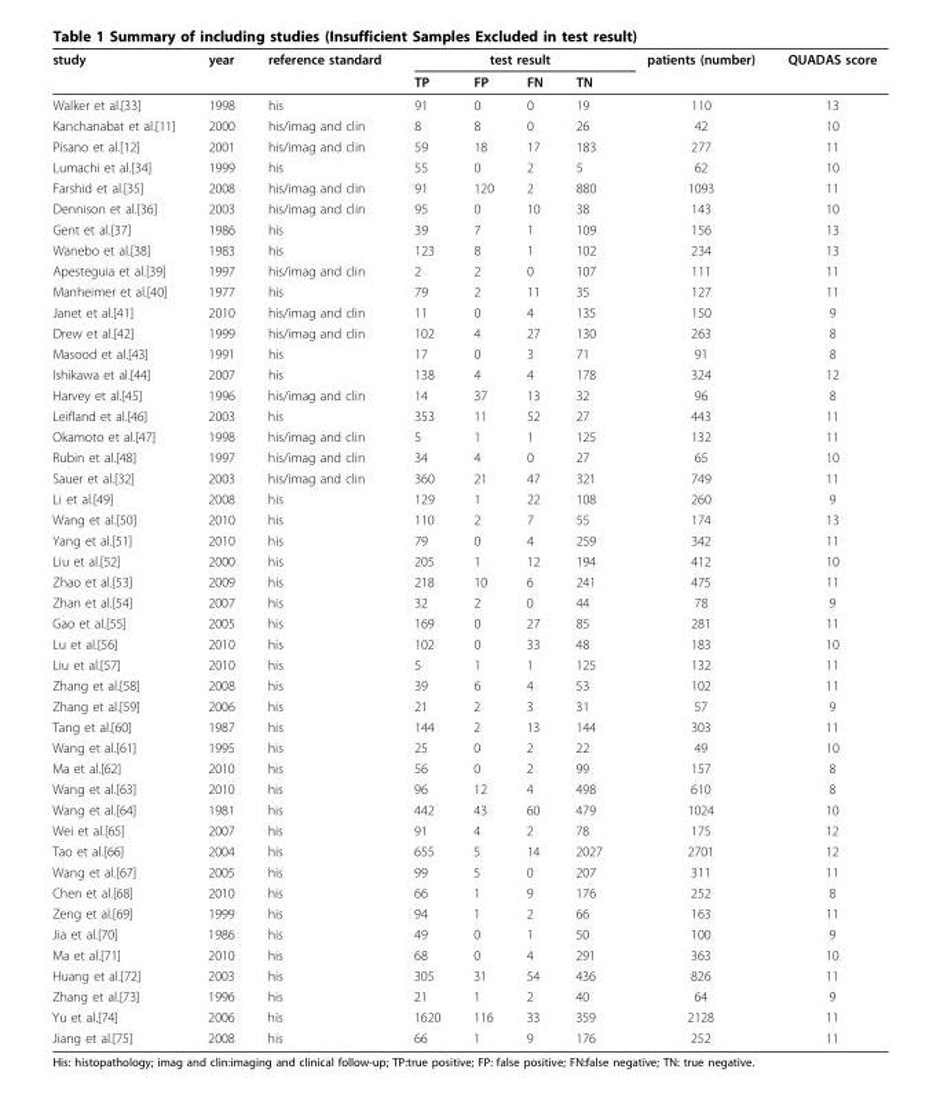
<table><thead><tr><td rowspan="2">study</td><td rowspan="2">year</td><td rowspan="2">reference standard</td><td colspan="4">test result</td><td rowspan="2">patients (number)</td><td rowspan="2">QUADAS score</td></tr><tr><td>TP</td><td>FP</td><td>FN</td><td>TN</td></tr></thead><tbody><tr><td>Walker et al.[33]</td><td>1998</td><td>his</td><td>91</td><td>0</td><td>0</td><td>19</td><td>110</td><td>13</td></tr><tr><td>Kanchanabat et al.[11]</td><td>2000</td><td>his/imag and clin</td><td>8</td><td>8</td><td>0</td><td>26</td><td>42</td><td>10</td></tr><tr><td>Pisano et al.[12]</td><td>2001</td><td>his/imag and clin</td><td>59</td><td>18</td><td>17</td><td>183</td><td>277</td><td>11</td></tr><tr><td>Lumachi et al.[34]</td><td>1999</td><td>his</td><td>55</td><td>0</td><td>2</td><td>5</td><td>62</td><td>10</td></tr><tr><td>Farshid et al.[35]</td><td>2008</td><td>his/imag and clin</td><td>91</td><td>120</td><td>2</td><td>880</td><td>1093</td><td>11</td></tr><tr><td>Dennison et al.[36]</td><td>2003</td><td>his/imag and clin</td><td>95</td><td>0</td><td>10</td><td>38</td><td>143</td><td>10</td></tr><tr><td>Gent et al.[37]</td><td>1986</td><td>his</td><td>39</td><td>7</td><td>1</td><td>109</td><td>156</td><td>13</td></tr><tr><td>Wanebo et al.[38]</td><td>1983</td><td>his</td><td>123</td><td>8</td><td>1</td><td>102</td><td>234</td><td>13</td></tr><tr><td>Apesteguia et al.[39]</td><td>1997</td><td>his/imag and clin</td><td>2</td><td>2</td><td>0</td><td>107</td><td>111</td><td>11</td></tr><tr><td>Manheimer et al.[40]</td><td>1977</td><td>his</td><td>79</td><td>2</td><td>11</td><td>35</td><td>127</td><td>11</td></tr><tr><td>Janet et al.[41]</td><td>2010</td><td>his/imag and clin</td><td>11</td><td>0</td><td>4</td><td>135</td><td>150</td><td>9</td></tr><tr><td>Drew et al.[42]</td><td>1999</td><td>his/imag and clin</td><td>102</td><td>4</td><td>27</td><td>130</td><td>263</td><td>8</td></tr><tr><td>Masood et al.[43]</td><td>1991</td><td>his</td><td>17</td><td>0</td><td>3</td><td>71</td><td>91</td><td>8</td></tr><tr><td>Ishikawa et al.[44]</td><td>2007</td><td>his</td><td>138</td><td>4</td><td>4</td><td>178</td><td>324</td><td>12</td></tr><tr><td>Harvey et al.[45]</td><td>1996</td><td>his/imag and clin</td><td>14</td><td>37</td><td>13</td><td>32</td><td>96</td><td>8</td></tr><tr><td>Leifland et al.[46]</td><td>2003</td><td>his</td><td>353</td><td>11</td><td>52</td><td>27</td><td>443</td><td>11</td></tr><tr><td>Okamoto et al.[47]</td><td>1998</td><td>his/imag and clin</td><td>5</td><td>1</td><td>1</td><td>125</td><td>132</td><td>11</td></tr><tr><td>Rubin et al.[48]</td><td>1997</td><td>his/imag and clin</td><td>34</td><td>4</td><td>0</td><td>27</td><td>65</td><td>10</td></tr><tr><td>Sauer et al.[32]</td><td>2003</td><td>his/imag and clin</td><td>360</td><td>21</td><td>47</td><td>321</td><td>749</td><td>11</td></tr><tr><td>Li et al.[49]</td><td>2008</td><td>his</td><td>129</td><td>1</td><td>22</td><td>108</td><td>260</td><td>9</td></tr><tr><td>Wang et al.[50]</td><td>2010</td><td>his</td><td>110</td><td>2</td><td>7</td><td>55</td><td>174</td><td>13</td></tr><tr><td>Yang et al.[51]</td><td>2010</td><td>his</td><td>79</td><td>0</td><td>4</td><td>259</td><td>342</td><td>11</td></tr><tr><td>Liu et al.[52]</td><td>2000</td><td>his</td><td>205</td><td>1</td><td>12</td><td>194</td><td>412</td><td>10</td></tr><tr><td>Zhao et al.[53]</td><td>2009</td><td>his</td><td>218</td><td>10</td><td>6</td><td>241</td><td>475</td><td>11</td></tr><tr><td>Zhan et al.[54]</td><td>2007</td><td>his</td><td>32</td><td>2</td><td>0</td><td>44</td><td>78</td><td>9</td></tr><tr><td>Gao et al.[55]</td><td>2005</td><td>his</td><td>169</td><td>0</td><td>27</td><td>85</td><td>281</td><td>11</td></tr><tr><td>Lu et al.[56]</td><td>2010</td><td>his</td><td>102</td><td>0</td><td>33</td><td>48</td><td>183</td><td>10</td></tr><tr><td>Liu et al.[57]</td><td>2010</td><td>his</td><td>5</td><td>1</td><td>1</td><td>125</td><td>132</td><td>11</td></tr><tr><td>Zhang et al.[58]</td><td>2008</td><td>his</td><td>39</td><td>6</td><td>4</td><td>53</td><td>102</td><td>11</td></tr><tr><td>Zhang et al.[59]</td><td>2006</td><td>his</td><td>21</td><td>2</td><td>3</td><td>31</td><td>57</td><td>9</td></tr><tr><td>Tang et al.[60]</td><td>1987</td><td>his</td><td>144</td><td>2</td><td>13</td><td>144</td><td>303</td><td>11</td></tr><tr><td>Wang et al.[61]</td><td>1995</td><td>his</td><td>25</td><td>0</td><td>2</td><td>22</td><td>49</td><td>10</td></tr><tr><td>Ma et al.[62]</td><td>2010</td><td>his</td><td>56</td><td>0</td><td>2</td><td>99</td><td>157</td><td>8</td></tr><tr><td>Wang et al.[63]</td><td>2010</td><td>his</td><td>96</td><td>12</td><td>4</td><td>498</td><td>610</td><td>8</td></tr><tr><td>Wang et al.[64]</td><td>1981</td><td>his</td><td>442</td><td>43</td><td>60</td><td>479</td><td>1024</td><td>10</td></tr><tr><td>Wei et al.[65]</td><td>2007</td><td>his</td><td>91</td><td>4</td><td>2</td><td>78</td><td>175</td><td>12</td></tr><tr><td>Tao et al.[66]</td><td>2004</td><td>his</td><td>655</td><td>5</td><td>14</td><td>2027</td><td>2701</td><td>12</td></tr><tr><td>Wang et al.[67]</td><td>2005</td><td>his</td><td>99</td><td>5</td><td>0</td><td>207</td><td>311</td><td>11</td></tr><tr><td>Chen et al.[68]</td><td>2010</td><td>his</td><td>66</td><td>1</td><td>9</td><td>176</td><td>252</td><td>8</td></tr><tr><td>Zeng et al.[69]</td><td>1999</td><td>his</td><td>94</td><td>1</td><td>2</td><td>66</td><td>163</td><td>11</td></tr><tr><td>Jia et al.[70]</td><td>1986</td><td>his</td><td>49</td><td>0</td><td>1</td><td>50</td><td>100</td><td>9</td></tr><tr><td>Ma et al.[71]</td><td>2010</td><td>his</td><td>68</td><td>0</td><td>4</td><td>291</td><td>363</td><td>10</td></tr><tr><td>Huang et al.[72]</td><td>2003</td><td>his</td><td>305</td><td>31</td><td>54</td><td>436</td><td>826</td><td>11</td></tr><tr><td>Zhang et al.[73]</td><td>1996</td><td>his</td><td>21</td><td>1</td><td>2</td><td>40</td><td>64</td><td>9</td></tr><tr><td>Yu et al.[74]</td><td>2006</td><td>his</td><td>1620</td><td>116</td><td>33</td><td>359</td><td>2128</td><td>11</td></tr><tr><td>Jiang et al.[75]</td><td>2008</td><td>his</td><td>66</td><td>1</td><td>9</td><td>176</td><td>252</td><td>11</td></tr></tbody></table>